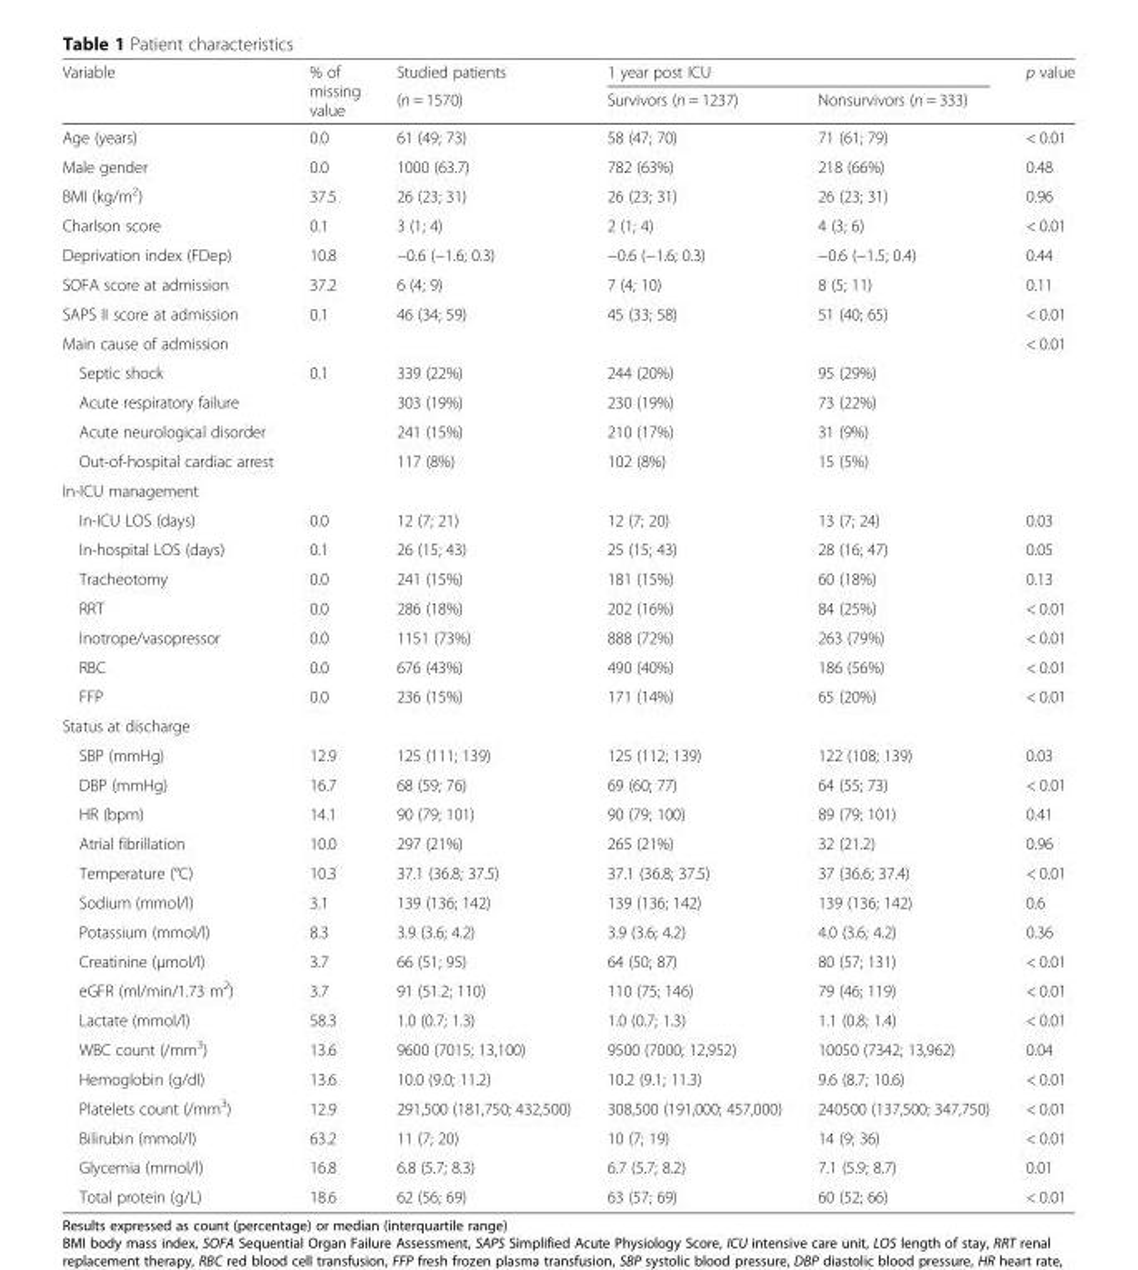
<table><thead><tr><td rowspan="2">Variable</td><td rowspan="2">% of missing value</td><td rowspan="2">Studied patients (n = 1570)</td><td colspan="2">1 year post ICU</td><td rowspan="2">p value</td></tr><tr><td>Survivors (n = 1237)</td><td>Nonsurvivors (n = 333)</td></tr></thead><tbody><tr><td>Age (years)</td><td>0.0</td><td>61 (49; 73)</td><td>58 (47; 70)</td><td>71 (61; 79)</td><td>&lt; 0.01</td></tr><tr><td>Male gender</td><td>0.0</td><td>1000 (63.7)</td><td>782 (63%)</td><td>218 (66%)</td><td>0.48</td></tr><tr><td>BMI (kg/m<sup>2</sup>)</td><td>37.5</td><td>26 (23; 31)</td><td>26 (23; 31)</td><td>26 (23; 31)</td><td>0.96</td></tr><tr><td>Charlson score</td><td>0.1</td><td>3 (1; 4)</td><td>2 (1; 4)</td><td>4 (3; 6)</td><td>&lt; 0.01</td></tr><tr><td>Deprivation index (FDep)</td><td>10.8</td><td>−0.6 (−1.6; 0.3)</td><td>−0.6 (−1.6; 0.3)</td><td>−0.6 (−1.5; 0.4)</td><td>0.44</td></tr><tr><td>SOFA score at admission</td><td>37.2</td><td>6 (4; 9)</td><td>7 (4; 10)</td><td>8 (5; 11)</td><td>0.11</td></tr><tr><td>SAPS II score at admission</td><td>0.1</td><td>46 (34; 59)</td><td>45 (33; 58)</td><td>51 (40; 65)</td><td>&lt; 0.01</td></tr><tr><td>Main cause of admission</td><td></td><td></td><td></td><td></td><td>&lt; 0.01</td></tr><tr><td>Septic shock</td><td>0.1</td><td>339 (22%)</td><td>244 (20%)</td><td>95 (29%)</td><td rowspan="4"></td></tr><tr><td>Acute respiratory failure</td><td></td><td>303 (19%)</td><td>230 (19%)</td><td>73 (22%)</td></tr><tr><td>Acute neurological disorder</td><td></td><td>241 (15%)</td><td>210 (17%)</td><td>31 (9%)</td></tr><tr><td>Out-of-hospital cardiac arrest</td><td></td><td>117 (8%)</td><td>102 (8%)</td><td>15 (5%)</td></tr><tr><td colspan="6">In-ICU management</td></tr><tr><td>In-ICU LOS (days)</td><td>0.0</td><td>12 (7; 21)</td><td>12 (7; 20)</td><td>13 (7; 24)</td><td>0.03</td></tr><tr><td>In-hospital LOS (days)</td><td>0.1</td><td>26 (15; 43)</td><td>25 (15; 43)</td><td>28 (16; 47)</td><td>0.05</td></tr><tr><td>Tracheotomy</td><td>0.0</td><td>241 (15%)</td><td>181 (15%)</td><td>60 (18%)</td><td>0.13</td></tr><tr><td>RRT</td><td>0.0</td><td>286 (18%)</td><td>202 (16%)</td><td>84 (25%)</td><td>&lt; 0.01</td></tr><tr><td>Inotrope/vasopressor</td><td>0.0</td><td>1151 (73%)</td><td>888 (72%)</td><td>263 (79%)</td><td>&lt; 0.01</td></tr><tr><td>RBC</td><td>0.0</td><td>676 (43%)</td><td>490 (40%)</td><td>186 (56%)</td><td>&lt; 0.01</td></tr><tr><td>FFP</td><td>0.0</td><td>236 (15%)</td><td>171 (14%)</td><td>65 (20%)</td><td>&lt; 0.01</td></tr><tr><td colspan="6">Status at discharge</td></tr><tr><td>SBP (mmHg)</td><td>12.9</td><td>125 (111; 139)</td><td>125 (112; 139)</td><td>122 (108; 139)</td><td>0.03</td></tr><tr><td>DBP (mmHg)</td><td>16.7</td><td>68 (59; 76)</td><td>69 (60; 77)</td><td>64 (55; 73)</td><td>&lt; 0.01</td></tr><tr><td>HR (bpm)</td><td>14.1</td><td>90 (79; 101)</td><td>90 (79; 100)</td><td>89 (79; 101)</td><td>0.41</td></tr><tr><td>Atrial fibrillation</td><td>10.0</td><td>297 (21%)</td><td>265 (21%)</td><td>32 (21.2)</td><td>0.96</td></tr><tr><td>Temperature (°C)</td><td>10.3</td><td>37.1 (36.8; 37.5)</td><td>37.1 (36.8; 37.5)</td><td>37 (36.6; 37.4)</td><td>&lt; 0.01</td></tr><tr><td>Sodium (mmol/l)</td><td>3.1</td><td>139 (136; 142)</td><td>139 (136; 142)</td><td>139 (136; 142)</td><td>0.6</td></tr><tr><td>Potassium (mmol/l)</td><td>8.3</td><td>3.9 (3.6; 4.2)</td><td>3.9 (3.6; 4.2)</td><td>4.0 (3.6; 4.2)</td><td>0.36</td></tr><tr><td>Creatinine (μmol/l)</td><td>3.7</td><td>66 (51; 95)</td><td>64 (50; 87)</td><td>80 (57; 131)</td><td>&lt; 0.01</td></tr><tr><td>eGFR (ml/min/1.73 m<sup>2</sup>)</td><td>3.7</td><td>91 (51.2; 110)</td><td>110 (75; 146)</td><td>79 (46; 119)</td><td>&lt; 0.01</td></tr><tr><td>Lactate (mmol/l)</td><td>58.3</td><td>1.0 (0.7; 1.3)</td><td>1.0 (0.7; 1.3)</td><td>1.1 (0.8; 1.4)</td><td>&lt; 0.01</td></tr><tr><td>WBC count (/mm<sup>3</sup>)</td><td>13.6</td><td>9600 (7015; 13,100)</td><td>9500 (7000; 12,952)</td><td>10050 (7342; 13,962)</td><td>0.04</td></tr><tr><td>Hemoglobin (g/dl)</td><td>13.6</td><td>10.0 (9.0; 11.2)</td><td>10.2 (9.1; 11.3)</td><td>9.6 (8.7; 10.6)</td><td>&lt; 0.01</td></tr><tr><td>Platelets count (/mm<sup>3</sup>)</td><td>12.9</td><td>291,500 (181,750; 432,500)</td><td>308,500 (191,000; 457,000)</td><td>240500 (137,500; 347,750)</td><td>&lt; 0.01</td></tr><tr><td>Bilirubin (mmol/l)</td><td>63.2</td><td>11 (7; 20)</td><td>10 (7; 19)</td><td>14 (9; 36)</td><td>&lt; 0.01</td></tr><tr><td>Glycemia (mmol/l)</td><td>16.8</td><td>6.8 (5.7; 8.3)</td><td>6.7 (5.7; 8.2)</td><td>7.1 (5.9; 8.7)</td><td>0.01</td></tr><tr><td>Total protein (g/L)</td><td>18.6</td><td>62 (56; 69)</td><td>63 (57; 69)</td><td>60 (52; 66)</td><td>&lt; 0.01</td></tr></tbody></table>